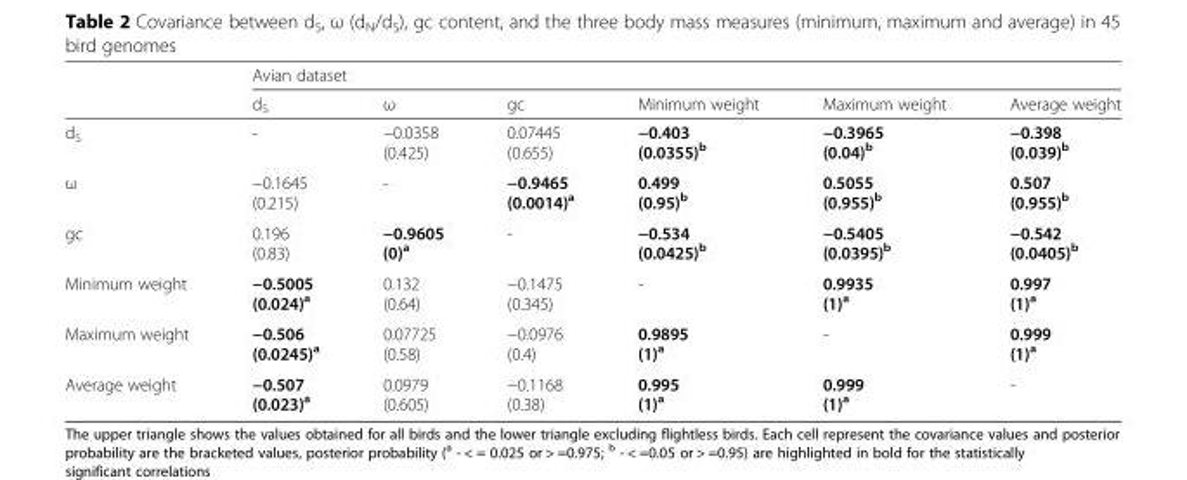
<table><thead><tr><td rowspan="2"></td><td colspan="6">Avian dataset</td></tr><tr><td>d<sub>S</sub></td><td>ω</td><td>gc</td><td>Minimum weight</td><td>Maximum weight</td><td>Average weight</td></tr></thead><tbody><tr><td>d<sub>S</sub></td><td>-</td><td>−0.0358 (0.425)</td><td>0.07445 (0.655)</td><td>−0.403 (0.0355)<sup>b</sup></td><td>−0.3965 (0.04)<sup>b</sup></td><td>−0.398 (0.039)<sup>b</sup></td></tr><tr><td>ω</td><td>−0.1645 (0.215)</td><td>-</td><td>−0.9465 (0.0014)<sup>a</sup></td><td>0.499 (0.95)<sup>b</sup></td><td>0.5055 (0.955)<sup>b</sup></td><td>0.507 (0.955)<sup>b</sup></td></tr><tr><td>gc</td><td>0.196 (0.83)</td><td>−0.9605 (0)<sup>a</sup></td><td>-</td><td>−0.534 (0.0425)<sup>b</sup></td><td>−0.5405 (0.0395)<sup>b</sup></td><td>−0.542 (0.0405)<sup>b</sup></td></tr><tr><td>Minimum weight</td><td>−0.5005 (0.024)<sup>a</sup></td><td>0.132 (0.64)</td><td>−0.1475 (0.345)</td><td>-</td><td>0.9935 (1)<sup>a</sup></td><td>0.997 (1)<sup>a</sup></td></tr><tr><td>Maximum weight</td><td>−0.506 (0.0245)<sup>a</sup></td><td>0.07725 (0.58)</td><td>−0.0976 (0.4)</td><td>0.9895 (1)<sup>a</sup></td><td>-</td><td>0.999 (1)<sup>a</sup></td></tr><tr><td>Average weight</td><td>−0.507 (0.023)<sup>a</sup></td><td>0.0979 (0.605)</td><td>−0.1168 (0.38)</td><td>0.995 (1)<sup>a</sup></td><td>0.999 (1)<sup>a</sup></td><td>-</td></tr></tbody></table>